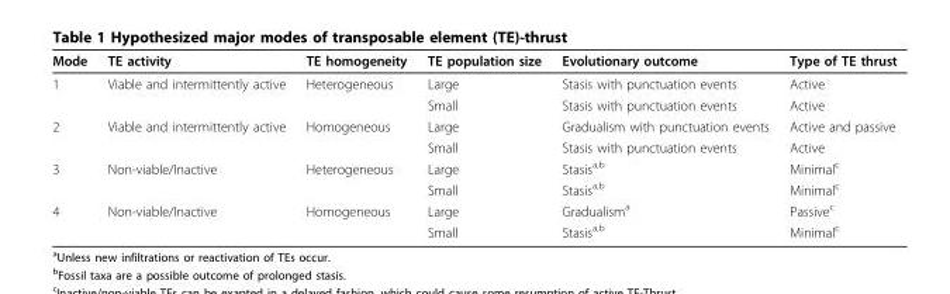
<table><thead><tr><td>Mode</td><td>TE activity</td><td>TE homogeneity</td><td>TE population size</td><td>Evolutionary outcome</td><td>Type of TE thrust</td></tr></thead><tbody><tr><td rowspan="2">1</td><td>Viable and intermittently active</td><td>Heterogeneous</td><td>Large</td><td>Stasis with punctuation events</td><td>Active</td></tr><tr><td></td><td></td><td>Small</td><td>Stasis with punctuation events</td><td>Active</td></tr><tr><td rowspan="2">2</td><td>Viable and intermittently active</td><td>Homogeneous</td><td>Large</td><td>Gradualism with punctuation events</td><td>Active and passive</td></tr><tr><td></td><td></td><td>Small</td><td>Stasis with punctuation events</td><td>Active</td></tr><tr><td rowspan="2">3</td><td>Non-viable/Inactive</td><td>Heterogeneous</td><td>Large</td><td>Stasis<sup>a,b</sup></td><td>Minimal<sup>c</sup></td></tr><tr><td></td><td></td><td>Small</td><td>Stasis<sup>a,b</sup></td><td>Minimal<sup>c</sup></td></tr><tr><td rowspan="2">4</td><td>Non-viable/Inactive</td><td>Homogeneous</td><td>Large</td><td>Gradualism<sup>a</sup></td><td>Passive<sup>c</sup></td></tr><tr><td></td><td></td><td>Small</td><td>Stasis<sup>a,b</sup></td><td>Minimal<sup>c</sup></td></tr></tbody></table>